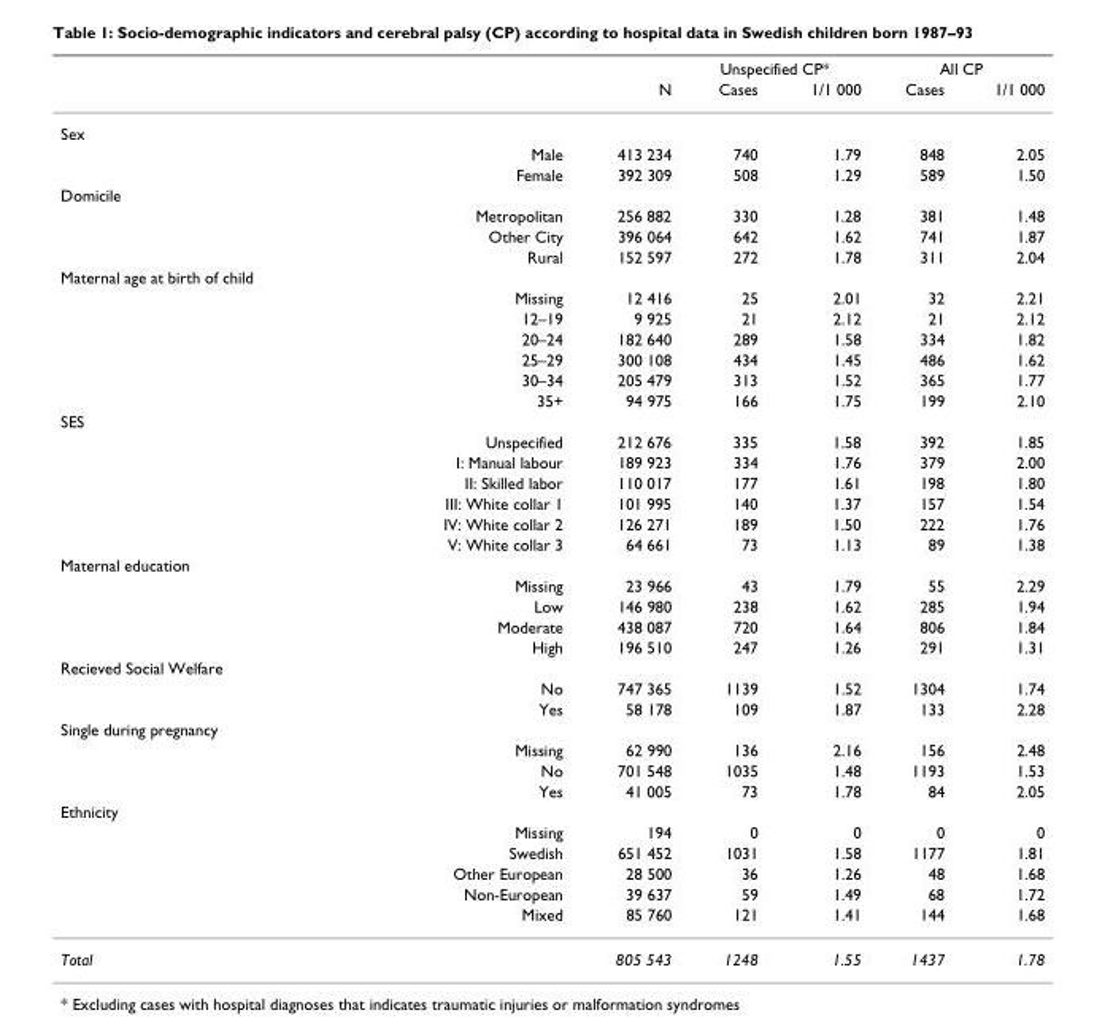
<table><thead><tr><td rowspan="2"></td><td rowspan="2"></td><td rowspan="2">N</td><td colspan="2">Unspecified CP*</td><td colspan="2">All CP</td></tr><tr><td>Cases</td><td>1/1 000</td><td>Cases</td><td>1/1 000</td></tr></thead><tbody><tr><td colspan="7">Sex</td></tr><tr><td></td><td>Male</td><td>413 234</td><td>740</td><td>1.79</td><td>848</td><td>2.05</td></tr><tr><td></td><td>Female</td><td>392 309</td><td>508</td><td>1.29</td><td>589</td><td>1.50</td></tr><tr><td colspan="7">Domicile</td></tr><tr><td></td><td>Metropolitan</td><td>256 882</td><td>330</td><td>1.28</td><td>381</td><td>1.48</td></tr><tr><td></td><td>Other City</td><td>396 064</td><td>642</td><td>1.62</td><td>741</td><td>1.87</td></tr><tr><td></td><td>Rural</td><td>152 597</td><td>272</td><td>1.78</td><td>311</td><td>2.04</td></tr><tr><td colspan="7">Maternal age at birth of child</td></tr><tr><td></td><td>Missing</td><td>12 416</td><td>25</td><td>2.01</td><td>32</td><td>2.21</td></tr><tr><td></td><td>12–19</td><td>9 925</td><td>21</td><td>2.12</td><td>21</td><td>2.12</td></tr><tr><td></td><td>20–24</td><td>182 640</td><td>289</td><td>1.58</td><td>334</td><td>1.82</td></tr><tr><td></td><td>25–29</td><td>300 108</td><td>434</td><td>1.45</td><td>486</td><td>1.62</td></tr><tr><td></td><td>30–34</td><td>205 479</td><td>313</td><td>1.52</td><td>365</td><td>1.77</td></tr><tr><td></td><td>35+</td><td>94 975</td><td>166</td><td>1.75</td><td>199</td><td>2.10</td></tr><tr><td colspan="7">SES</td></tr><tr><td></td><td>Unspecified</td><td>212 676</td><td>335</td><td>1.58</td><td>392</td><td>1.85</td></tr><tr><td></td><td>I: Manual labour</td><td>189 923</td><td>334</td><td>1.76</td><td>379</td><td>2.00</td></tr><tr><td></td><td>II: Skilled labor</td><td>110 017</td><td>177</td><td>1.61</td><td>198</td><td>1.80</td></tr><tr><td></td><td>III: White collar 1</td><td>101 995</td><td>140</td><td>1.37</td><td>157</td><td>1.54</td></tr><tr><td></td><td>IV: White collar 2</td><td>126 271</td><td>189</td><td>1.50</td><td>222</td><td>1.76</td></tr><tr><td></td><td>V: White collar 3</td><td>64 661</td><td>73</td><td>1.13</td><td>89</td><td>1.38</td></tr><tr><td colspan="7">Maternal education</td></tr><tr><td></td><td>Missing</td><td>23 966</td><td>43</td><td>1.79</td><td>55</td><td>2.29</td></tr><tr><td></td><td>Low</td><td>146 980</td><td>238</td><td>1.62</td><td>285</td><td>1.94</td></tr><tr><td></td><td>Moderate</td><td>438 087</td><td>720</td><td>1.64</td><td>806</td><td>1.84</td></tr><tr><td></td><td>High</td><td>196 510</td><td>247</td><td>1.26</td><td>291</td><td>1.31</td></tr><tr><td colspan="7">Recieved Social Welfare</td></tr><tr><td></td><td>No</td><td>747 365</td><td>1139</td><td>1.52</td><td>1304</td><td>1.74</td></tr><tr><td></td><td>Yes</td><td>58 178</td><td>109</td><td>1.87</td><td>133</td><td>2.28</td></tr><tr><td colspan="7">Single during pregnancy</td></tr><tr><td></td><td>Missing</td><td>62 990</td><td>136</td><td>2.16</td><td>156</td><td>2.48</td></tr><tr><td></td><td>No</td><td>701 548</td><td>1035</td><td>1.48</td><td>1193</td><td>1.53</td></tr><tr><td></td><td>Yes</td><td>41 005</td><td>73</td><td>1.78</td><td>84</td><td>2.05</td></tr><tr><td colspan="7">Ethnicity</td></tr><tr><td></td><td>Missing</td><td>194</td><td>0</td><td>0</td><td>0</td><td>0</td></tr><tr><td></td><td>Swedish</td><td>651 452</td><td>1031</td><td>1.58</td><td>1177</td><td>1.81</td></tr><tr><td></td><td>Other European</td><td>28 500</td><td>36</td><td>1.26</td><td>48</td><td>1.68</td></tr><tr><td></td><td>Non-European</td><td>39 637</td><td>59</td><td>1.49</td><td>68</td><td>1.72</td></tr><tr><td></td><td>Mixed</td><td>85 760</td><td>121</td><td>1.41</td><td>144</td><td>1.68</td></tr><tr><td>Total</td><td></td><td>805 543</td><td>1248</td><td>1.55</td><td>1437</td><td>1.78</td></tr></tbody></table>